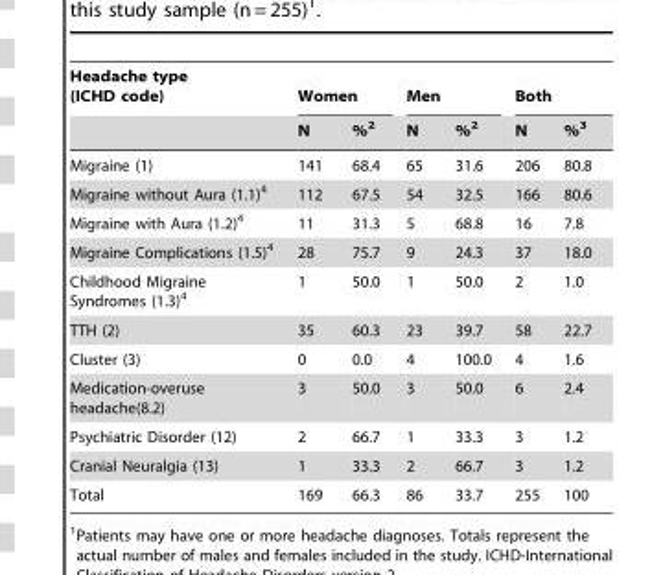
<table><thead><tr><td rowspan="2">Headache type (ICHD code)</td><td colspan="2">Women</td><td colspan="2">Men</td><td colspan="2">Both</td></tr><tr><td>N</td><td>%<sup>2</sup></td><td>N</td><td>%<sup>2</sup></td><td>N</td><td>%<sup>3</sup></td></tr></thead><tbody><tr><td>Migraine (1)</td><td>141</td><td>68.4</td><td>65</td><td>31.6</td><td>206</td><td>80.8</td></tr><tr><td>Migraine without Aura (1.1)<sup>4</sup></td><td>112</td><td>67.5</td><td>54</td><td>32.5</td><td>166</td><td>80.6</td></tr><tr><td>Migraine with Aura (1.2)<sup>4</sup></td><td>11</td><td>31.3</td><td>5</td><td>68.8</td><td>16</td><td>7.8</td></tr><tr><td>Migraine Complications (1.5)<sup>4</sup></td><td>28</td><td>75.7</td><td>9</td><td>24.3</td><td>37</td><td>18.0</td></tr><tr><td>Childhood Migraine Syndromes (1.3)<sup>4</sup></td><td>1</td><td>50.0</td><td>1</td><td>50.0</td><td>2</td><td>1.0</td></tr><tr><td>TTH (2)</td><td>35</td><td>60.3</td><td>23</td><td>39.7</td><td>58</td><td>22.7</td></tr><tr><td>Cluster (3)</td><td>0</td><td>0.0</td><td>4</td><td>100.0</td><td>4</td><td>1.6</td></tr><tr><td>Medication-overuse headache(8.2)</td><td>3</td><td>50.0</td><td>3</td><td>50.0</td><td>6</td><td>2.4</td></tr><tr><td>Psychiatric Disorder (12)</td><td>2</td><td>66.7</td><td>1</td><td>33.3</td><td>3</td><td>1.2</td></tr><tr><td>Cranial Neuralgia (13)</td><td>1</td><td>33.3</td><td>2</td><td>66.7</td><td>3</td><td>1.2</td></tr><tr><td>Total</td><td>169</td><td>66.3</td><td>86</td><td>33.7</td><td>255</td><td>100</td></tr></tbody></table>